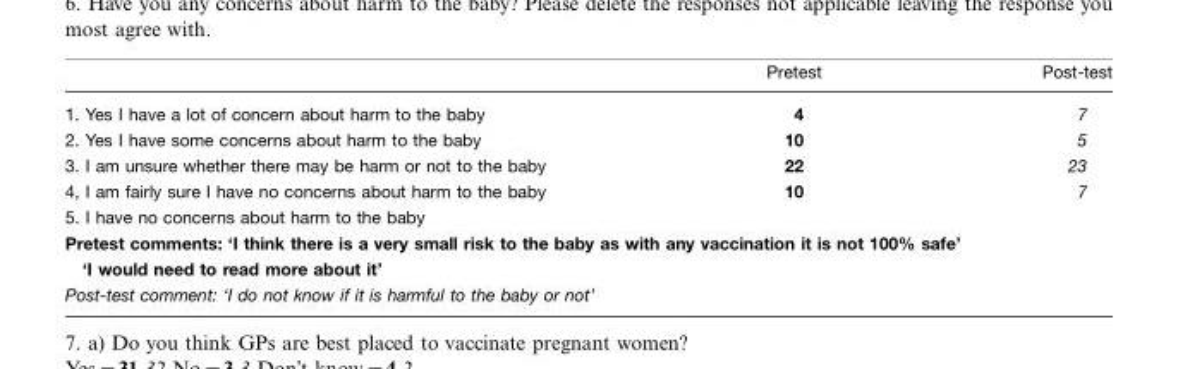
<table><thead><tr><td></td><td>Pretest</td><td>Post-test</td></tr></thead><tbody><tr><td>1. Yes I have a lot of concern about harm to the baby</td><td>4</td><td>7</td></tr><tr><td>2. Yes I have some concerns about harm to the baby</td><td>10</td><td>5</td></tr><tr><td>3. I am unsure whether there may be harm or not to the baby</td><td>22</td><td>23</td></tr><tr><td>4, I am fairly sure I have no concerns about harm to the baby</td><td>10</td><td>7</td></tr><tr><td colspan="3">5. I have no concerns about harm to the baby</td></tr><tr><td colspan="3">Pretest comments: ‘I think there is a very small risk to the baby as with any vaccination it is not 100% safe’ ‘I would need to read more about it’</td></tr><tr><td colspan="3">Post-test comment: ‘I do not know if it is harmful to the baby or not’</td></tr></tbody></table>